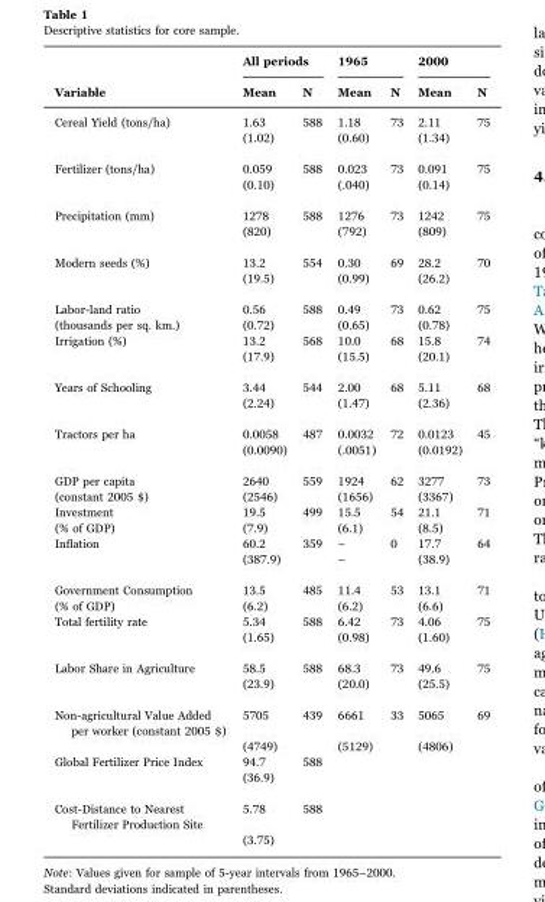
<table><thead><tr><td rowspan="2">Variable</td><td colspan="2">All periods</td><td colspan="2">1965</td><td colspan="2">2000</td></tr><tr><td>Mean</td><td>N</td><td>Mean</td><td>N</td><td>Mean</td><td>N</td></tr></thead><tbody><tr><td rowspan="2">Cereal Yield (tons/ha)</td><td>1.63</td><td>588</td><td>1.18</td><td>73</td><td>2.11</td><td>75</td></tr><tr><td>(1.02)</td><td></td><td>(0.60)</td><td></td><td>(1.34)</td><td></td></tr><tr><td rowspan="2">Fertilizer (tons/ha)</td><td>0.059</td><td>588</td><td>0.023</td><td>73</td><td>0.091</td><td>75</td></tr><tr><td>(0.10)</td><td></td><td>(.040)</td><td></td><td>(0.14)</td><td></td></tr><tr><td rowspan="2">Precipitation (mm)</td><td>1278</td><td>588</td><td>1276</td><td>73</td><td>1242</td><td>75</td></tr><tr><td>(820)</td><td></td><td>(792)</td><td></td><td>(809)</td><td></td></tr><tr><td rowspan="2">Modern seeds (%)</td><td>13.2</td><td>554</td><td>0.30</td><td>69</td><td>28.2</td><td>70</td></tr><tr><td>(19.5)</td><td></td><td>(0.99)</td><td></td><td>(26.2)</td><td></td></tr><tr><td>Labor-land ratio</td><td>0.56</td><td>588</td><td>0.49</td><td>73</td><td>0.62</td><td>75</td></tr><tr><td>(thousands per sq. km.)</td><td>(0.72)</td><td></td><td>(0.65)</td><td></td><td>(0.78)</td><td></td></tr><tr><td rowspan="2">Irrigation (%)</td><td>13.2</td><td>568</td><td>10.0</td><td>68</td><td>15.8</td><td>74</td></tr><tr><td>(17.9)</td><td></td><td>(15.5)</td><td></td><td>(20.1)</td><td></td></tr><tr><td rowspan="2">Years of Schooling</td><td>3.44</td><td>544</td><td>2.00</td><td>68</td><td>5.11</td><td>68</td></tr><tr><td>(2.24)</td><td></td><td>(1.47)</td><td></td><td>(2.36)</td><td></td></tr><tr><td rowspan="2">Tractors per ha</td><td>0.0058</td><td>487</td><td>0.0032</td><td>72</td><td>0.0123</td><td>45</td></tr><tr><td>(0.0090)</td><td></td><td>(.0051)</td><td></td><td>(0.0192)</td><td></td></tr><tr><td>GDP per capita</td><td>2640</td><td>559</td><td>1924</td><td>62</td><td>3277</td><td>73</td></tr><tr><td>(constant 2005 $)</td><td>(2546)</td><td></td><td>(1656)</td><td></td><td>(3367)</td><td></td></tr><tr><td>Investment</td><td>19.5</td><td>499</td><td>15.5</td><td>54</td><td>21.1</td><td>71</td></tr><tr><td>(% of GDP)</td><td>(7.9)</td><td></td><td>(6.1)</td><td></td><td>(8.5)</td><td></td></tr><tr><td rowspan="2">Inflation</td><td>60.2</td><td>359</td><td>–</td><td>0</td><td>17.7</td><td>64</td></tr><tr><td>(387.9)</td><td></td><td>–</td><td></td><td>(38.9)</td><td></td></tr><tr><td>Government Consumption</td><td>13.5</td><td>485</td><td>11.4</td><td>53</td><td>13.1</td><td>71</td></tr><tr><td>(% of GDP)</td><td>(6.2)</td><td></td><td>(6.2)</td><td></td><td>(6.6)</td><td></td></tr><tr><td rowspan="2">Total fertility rate</td><td>5.34</td><td>588</td><td>6.42</td><td>73</td><td>4.06</td><td>75</td></tr><tr><td>(1.65)</td><td></td><td>(0.98)</td><td></td><td>(1.60)</td><td></td></tr><tr><td rowspan="2">Labor Share in Agriculture</td><td>58.5</td><td>588</td><td>68.3</td><td>73</td><td>49.6</td><td>75</td></tr><tr><td>(23.9)</td><td></td><td>(20.0)</td><td></td><td>(25.5)</td><td></td></tr><tr><td rowspan="2">Non-agricultural Value Added per worker (constant 2005 $)</td><td>5705</td><td>439</td><td>6661</td><td>33</td><td>5065</td><td>69</td></tr><tr><td>(4749)</td><td></td><td>(5129)</td><td></td><td>(4806)</td><td></td></tr><tr><td rowspan="2">Global Fertilizer Price Index</td><td>94.7</td><td>588</td><td></td><td></td><td></td><td></td></tr><tr><td>(36.9)</td><td></td><td></td><td></td><td></td><td></td></tr><tr><td rowspan="2">Cost-Distance to Nearest Fertilizer Production Site</td><td>5.78</td><td>588</td><td></td><td></td><td></td><td></td></tr><tr><td>(3.75)</td><td></td><td></td><td></td><td></td><td></td></tr></tbody></table>